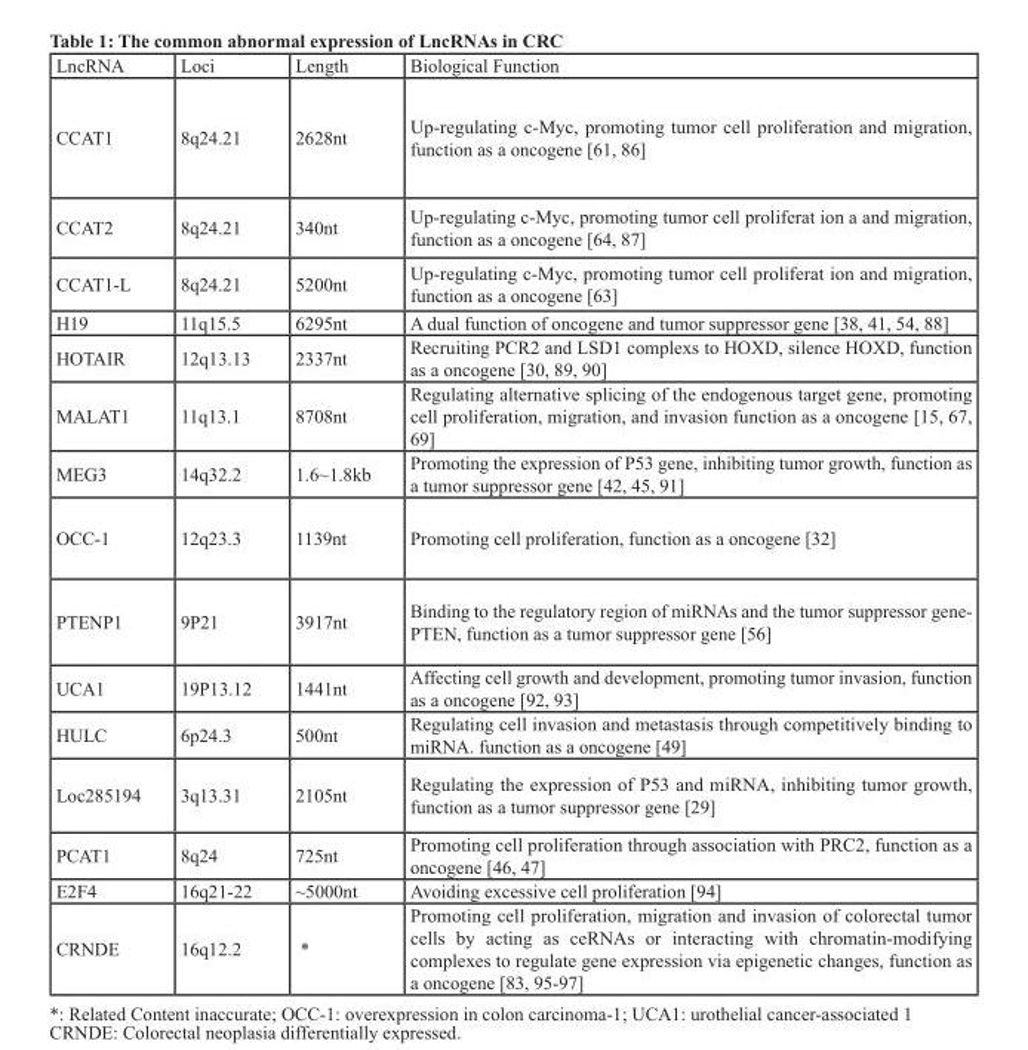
<table><thead><tr><td>LncRNA</td><td>Loci</td><td>Length</td><td>Biological Function</td></tr></thead><tbody><tr><td>CCAT1</td><td>8q24.21</td><td>2628nt</td><td>Up-regulating c-Myc, promoting tumor cell proliferation and migration, function as a oncogene [61, 86]</td></tr><tr><td>CCAT2</td><td>8q24.21</td><td>340nt</td><td>Up-regulating c-Myc, promoting tumor cell proliferat ion a and migration, function as a oncogene [64, 87]</td></tr><tr><td>CCAT1-L</td><td>8q24.21</td><td>5200nt</td><td>Up-regulating c-Myc, promoting tumor cell proliferat ion and migration, function as a oncogene [63]</td></tr><tr><td>H19</td><td>11q15.5</td><td>6295nt</td><td>A dual function of oncogene and tumor suppressor gene [38, 41, 54, 88]</td></tr><tr><td>HOTAIR</td><td>12q13.13</td><td>2337nt</td><td>Recruiting PCR2 and LSD1 complexs to HOXD, silence HOXD, function as a oncogene [30, 89, 90]</td></tr><tr><td>MALAT1</td><td>11q13.1</td><td>8708nt</td><td>Regulating alternative splicing of the endogenous target gene, promoting cell proliferation, migration, and invasion function as a oncogene [15, 67, 69]</td></tr><tr><td>MEG3</td><td>14q32.2</td><td>1.6~1.8kb</td><td>Promoting the expression of P53 gene, inhibiting tumor growth, function as a tumor suppressor gene [42, 45, 91]</td></tr><tr><td>OCC-1</td><td>12q23.3</td><td>1139nt</td><td>Promoting cell proliferation, function as a oncogene [32]</td></tr><tr><td>PTENP1</td><td>9P21</td><td>3917nt</td><td>Binding to the regulatory region of miRNAs and the tumor suppressor gene- PTEN, function as a tumor suppressor gene [56]</td></tr><tr><td>UCA1</td><td>19P13.12</td><td>1441nt</td><td>Affecting cell growth and development, promoting tumor invasion, function as a oncogene [92, 93]</td></tr><tr><td>HULC</td><td>6p24.3</td><td>500nt</td><td>Regulating cell invasion and metastasis through competitively binding to miRNA. function as a oncogene [49]</td></tr><tr><td>Loc285194</td><td>3q13.31</td><td>2105nt</td><td>Regulating the expression of P53 and miRNA, inhibiting tumor growth, function as a tumor suppressor gene [29]</td></tr><tr><td>PCAT1</td><td>8q24</td><td>725nt</td><td>Promoting cell proliferation through association with PRC2, function as a oncogene [46, 47]</td></tr><tr><td>E2F4</td><td>16q21-22</td><td>~5000nt</td><td>Avoiding excessive cell proliferation [94]</td></tr><tr><td>CRNDE</td><td>16q12.2</td><td>*</td><td>Promoting cell proliferation, migration and invasion of colorectal tumor cells by acting as ceRNAs or interacting with chromatin-modifying complexes to regulate gene expression via epigenetic changes, function as a oncogene [83, 95-97]</td></tr></tbody></table>